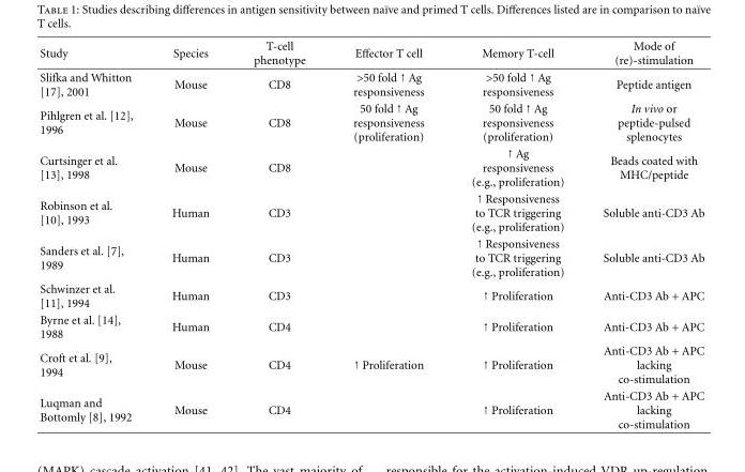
<table><thead><tr><td>Study</td><td>Species</td><td>T-cell phenotype</td><td>Effector T cell</td><td>Memory T-cell</td><td>Mode of (re)-stimulation</td></tr></thead><tbody><tr><td>Slifka and Whitton [17], 2001</td><td>Mouse</td><td>CD8</td><td>&gt;50 fold ↑ Ag responsiveness</td><td>&gt;50 fold ↑ Ag responsiveness</td><td>Peptide antigen</td></tr><tr><td>Pihlgren et al. [12], 1996</td><td>Mouse</td><td>CD8</td><td>50 fold ↑ Ag responsiveness (proliferation)</td><td>50 fold ↑ Ag responsiveness (proliferation)</td><td>In vivo or peptide-pulsed splenocytes</td></tr><tr><td>Curtsinger et al. [13], 1998</td><td>Mouse</td><td>CD8</td><td></td><td>↑ Ag responsiveness (e.g., proliferation)</td><td>Beads coated with MHC/peptide</td></tr><tr><td>Robinson et al. [10], 1993</td><td>Human</td><td>CD3</td><td></td><td>↑ Responsiveness to TCR triggering (e.g., proliferation)</td><td>Soluble anti-CD3 Ab</td></tr><tr><td>Sanders et al. [7], 1989</td><td>Human</td><td>CD3</td><td></td><td>↑ Responsiveness to TCR triggering (e.g., proliferation)</td><td>Soluble anti-CD3 Ab</td></tr><tr><td>Schwinzer et al. [11], 1994</td><td>Human</td><td>CD3</td><td></td><td>↑ Proliferation</td><td>Anti-CD3 Ab + APC</td></tr><tr><td>Byrne et al. [14], 1988</td><td>Human</td><td>CD4</td><td></td><td>↑ Proliferation</td><td>Anti-CD3 Ab + APC</td></tr><tr><td>Croft et al. [9], 1994</td><td>Mouse</td><td>CD4</td><td>↑ Proliferation</td><td>↑ Proliferation</td><td>Anti-CD3 Ab + APC lacking co-stimulation</td></tr><tr><td>Luqman and Bottomly [8], 1992</td><td>Mouse</td><td>CD4</td><td></td><td>↑ Proliferation</td><td>Anti-CD3 Ab + APC lacking co-stimulation</td></tr></tbody></table>